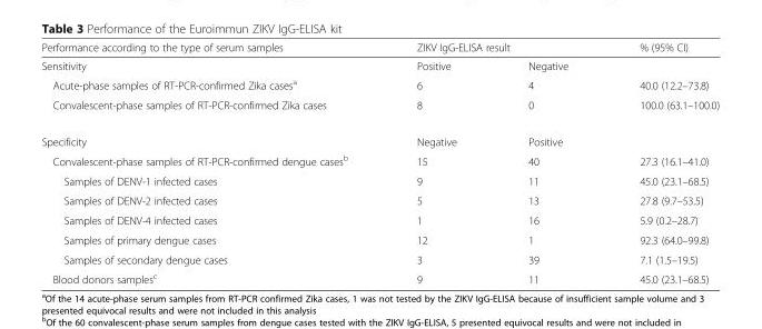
<table><thead><tr><td rowspan="2">Performance according to the type of serum samples Sensitivity</td><td colspan="2">ZIKV IgG-ELISA result</td><td rowspan="2">% (95% CI)</td></tr><tr><td>Positive</td><td>Negative</td></tr></thead><tbody><tr><td>Acute-phase samples of RT-PCR-confirmed Zika cases<sup>a</sup></td><td>6</td><td>4</td><td>40.0 (12.2–73.8)</td></tr><tr><td>Convalescent-phase samples of RT-PCR-confirmed Zika cases</td><td>8</td><td>0</td><td>100.0 (63.1–100.0)</td></tr><tr><td>Specificity</td><td>Negative</td><td>Positive</td><td></td></tr><tr><td>Convalescent-phase samples of RT-PCR-confirmed dengue cases<sup>b</sup></td><td>15</td><td>40</td><td>27.3 (16.1–41.0)</td></tr><tr><td>Samples of DENV-1 infected cases</td><td>9</td><td>11</td><td>45.0 (23.1–68.5)</td></tr><tr><td>Samples of DENV-2 infected cases</td><td>5</td><td>13</td><td>27.8 (9.7–53.5)</td></tr><tr><td>Samples of DENV-4 infected cases</td><td>1</td><td>16</td><td>5.9 (0.2–28.7)</td></tr><tr><td>Samples of primary dengue cases</td><td>12</td><td>1</td><td>92.3 (64.0–99.8)</td></tr><tr><td>Samples of secondary dengue cases</td><td>3</td><td>39</td><td>7.1 (1.5–19.5)</td></tr><tr><td>Blood donors samples<sup>c</sup></td><td>9</td><td>11</td><td>45.0 (23.1–68.5)</td></tr></tbody></table>